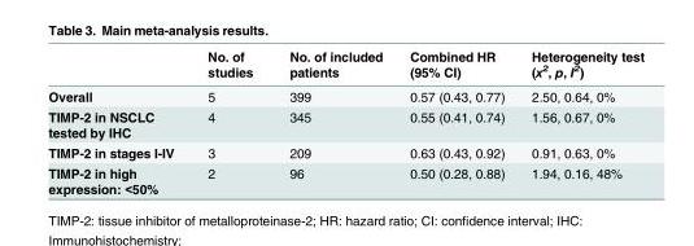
<table><thead><tr><td></td><td>No. of studies</td><td>No. of included patients</td><td>Combined HR (95% CI)</td><td>Heterogeneity test (x<sup>2</sup>, p, I<sup>2</sup>)</td></tr></thead><tbody><tr><td>Overall</td><td>5</td><td>399</td><td>0.57 (0.43, 0.77)</td><td>2.50, 0.64, 0%</td></tr><tr><td>TIMP-2 in NSCLC tested by IHC</td><td>4</td><td>345</td><td>0.55 (0.41, 0.74)</td><td>1.56, 0.67, 0%</td></tr><tr><td>TIMP-2 in stages I-IV</td><td>3</td><td>209</td><td>0.63 (0.43, 0.92)</td><td>0.91, 0.63, 0%</td></tr><tr><td>TIMP-2 in high expression: &lt;50%</td><td>2</td><td>96</td><td>0.50 (0.28, 0.88)</td><td>1.94, 0.16, 48%</td></tr></tbody></table>